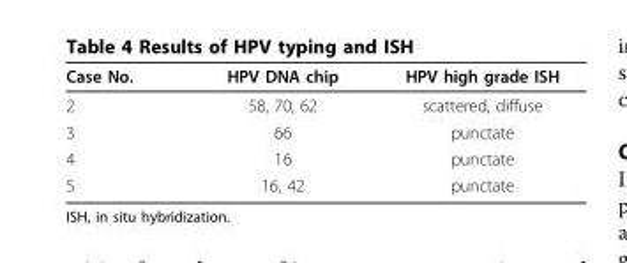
<table><thead><tr><td>Case No.</td><td>HPV DNA chip</td><td>HPV high grade ISH</td></tr></thead><tbody><tr><td>2</td><td>58, 70, 62</td><td>scattered, diffuse</td></tr><tr><td>3</td><td>66</td><td>punctate</td></tr><tr><td>4</td><td>16</td><td>punctate</td></tr><tr><td>5</td><td>16, 42</td><td>punctate</td></tr></tbody></table>